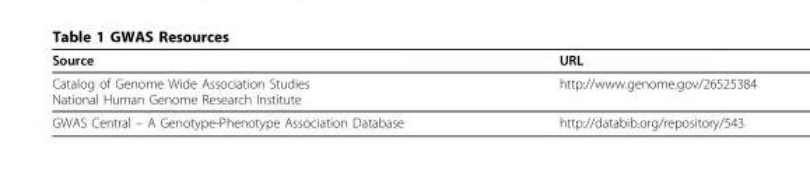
<table><thead><tr><td>Source</td><td>URL</td></tr></thead><tbody><tr><td>Catalog of Genome Wide Association Studies National Human Genome Research Institute</td><td>http://www.genome.gov/26525384</td></tr><tr><td>GWAS Central – A Genotype-Phenotype Association Database</td><td>http://databib.org/repository/543</td></tr></tbody></table>